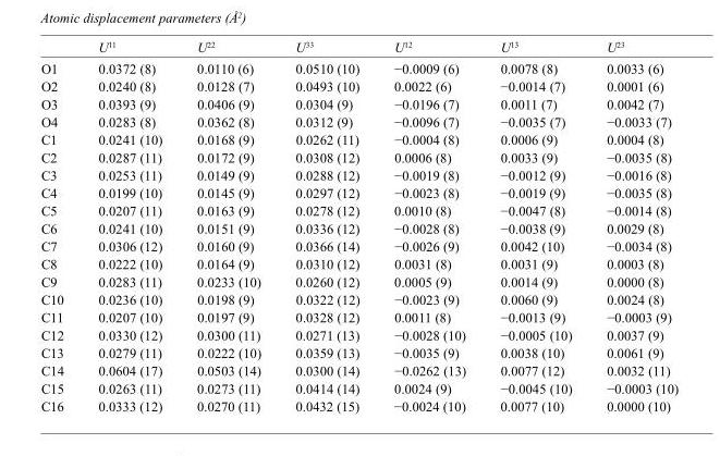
<table><thead><tr><td></td><td>U<sup>11</sup></td><td>U<sup>22</sup></td><td>U<sup>33</sup></td><td>U<sup>12</sup></td><td>U<sup>13</sup></td><td>U<sup>23</sup></td></tr></thead><tbody><tr><td>O1</td><td>0.0372 (8)</td><td>0.0110 (6)</td><td>0.0510 (10)</td><td>−0.0009 (6)</td><td>0.0078 (8)</td><td>0.0033 (6)</td></tr><tr><td>O2</td><td>0.0240 (8)</td><td>0.0128 (7)</td><td>0.0493 (10)</td><td>0.0022 (6)</td><td>−0.0014 (7)</td><td>0.0001 (6)</td></tr><tr><td>O3</td><td>0.0393 (9)</td><td>0.0406 (9)</td><td>0.0304 (9)</td><td>−0.0196 (7)</td><td>0.0011 (7)</td><td>0.0042 (7)</td></tr><tr><td>O4</td><td>0.0283 (8)</td><td>0.0362 (8)</td><td>0.0312 (9)</td><td>−0.0096 (7)</td><td>−0.0035 (7)</td><td>−0.0033 (7)</td></tr><tr><td>C1</td><td>0.0241 (10)</td><td>0.0168 (9)</td><td>0.0262 (11)</td><td>−0.0004 (8)</td><td>0.0006 (9)</td><td>0.0004 (8)</td></tr><tr><td>C2</td><td>0.0287 (11)</td><td>0.0172 (9)</td><td>0.0308 (12)</td><td>0.0006 (8)</td><td>0.0033 (9)</td><td>−0.0035 (8)</td></tr><tr><td>C3</td><td>0.0253 (11)</td><td>0.0149 (9)</td><td>0.0288 (12)</td><td>−0.0019 (8)</td><td>−0.0012 (9)</td><td>−0.0016 (8)</td></tr><tr><td>C4</td><td>0.0199 (10)</td><td>0.0145 (9)</td><td>0.0297 (12)</td><td>−0.0023 (8)</td><td>−0.0019 (9)</td><td>−0.0035 (8)</td></tr><tr><td>C5</td><td>0.0207 (11)</td><td>0.0163 (9)</td><td>0.0278 (12)</td><td>0.0010 (8)</td><td>−0.0047 (8)</td><td>−0.0014 (8)</td></tr><tr><td>C6</td><td>0.0241 (10)</td><td>0.0151 (9)</td><td>0.0336 (12)</td><td>−0.0028 (8)</td><td>−0.0038 (9)</td><td>0.0029 (8)</td></tr><tr><td>C7</td><td>0.0306 (12)</td><td>0.0160 (9)</td><td>0.0366 (14)</td><td>−0.0026 (9)</td><td>0.0042 (10)</td><td>−0.0034 (8)</td></tr><tr><td>C8</td><td>0.0222 (10)</td><td>0.0164 (9)</td><td>0.0310 (12)</td><td>0.0031 (8)</td><td>0.0031 (9)</td><td>0.0003 (8)</td></tr><tr><td>C9</td><td>0.0283 (11)</td><td>0.0233 (10)</td><td>0.0260 (12)</td><td>0.0005 (9)</td><td>0.0014 (9)</td><td>0.0000 (8)</td></tr><tr><td>C10</td><td>0.0236 (10)</td><td>0.0198 (9)</td><td>0.0322 (12)</td><td>−0.0023 (9)</td><td>0.0060 (9)</td><td>0.0024 (8)</td></tr><tr><td>C11</td><td>0.0207 (10)</td><td>0.0197 (9)</td><td>0.0328 (12)</td><td>0.0011 (8)</td><td>−0.0013 (9)</td><td>−0.0003 (9)</td></tr><tr><td>C12</td><td>0.0330 (12)</td><td>0.0300 (11)</td><td>0.0271 (13)</td><td>−0.0028 (10)</td><td>−0.0005 (10)</td><td>0.0037 (9)</td></tr><tr><td>C13</td><td>0.0279 (11)</td><td>0.0222 (10)</td><td>0.0359 (13)</td><td>−0.0035 (9)</td><td>0.0038 (10)</td><td>0.0061 (9)</td></tr><tr><td>C14</td><td>0.0604 (17)</td><td>0.0503 (14)</td><td>0.0300 (14)</td><td>−0.0262 (13)</td><td>0.0077 (12)</td><td>0.0032 (11)</td></tr><tr><td>C15</td><td>0.0263 (11)</td><td>0.0273 (11)</td><td>0.0414 (14)</td><td>0.0024 (9)</td><td>−0.0045 (10)</td><td>−0.0003 (10)</td></tr><tr><td>C16</td><td>0.0333 (12)</td><td>0.0270 (11)</td><td>0.0432 (15)</td><td>−0.0024 (10)</td><td>0.0077 (10)</td><td>0.0000 (10)</td></tr></tbody></table>